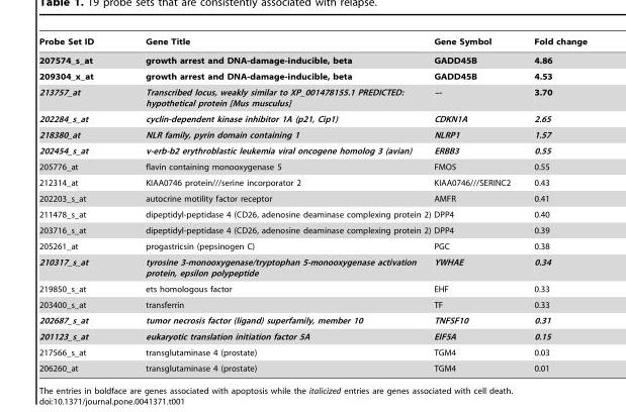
<table><thead><tr><td>Probe Set ID</td><td>Gene Title</td><td>Gene Symbol</td><td>Fold change</td></tr></thead><tbody><tr><td>207574_s_at</td><td>growth arrest and DNA-damage-inducible, beta</td><td>GADD45B</td><td>4.86</td></tr><tr><td>209304_x_at</td><td>growth arrest and DNA-damage-inducible, beta</td><td>GADD45B</td><td>4.53</td></tr><tr><td>213757_at</td><td>Transcribed locus, weakly similar to XP_001478155.1 PREDICTED: hypothetical protein [Mus musculus]</td><td>–-</td><td>3.70</td></tr><tr><td>202284_s_at</td><td>cyclin-dependent kinase inhibitor 1A (p21, Cip1)</td><td>CDKN1A</td><td>2.65</td></tr><tr><td>218380_at</td><td>NLR family, pyrin domain containing 1</td><td>NLRP1</td><td>1.57</td></tr><tr><td>202454_s_at</td><td>v-erb-b2 erythroblastic leukemia viral oncogene homolog 3 (avian)</td><td>ERBB3</td><td>0.55</td></tr><tr><td>205776_at</td><td>flavin containing monooxygenase 5</td><td>FMO5</td><td>0.55</td></tr><tr><td>212314_at</td><td>KIAA0746 protein///serine incorporator 2</td><td>KIAA0746///SERINC2</td><td>0.43</td></tr><tr><td>202203_s_at</td><td>autocrine motility factor receptor</td><td>AMFR</td><td>0.41</td></tr><tr><td>211478_s_at</td><td>dipeptidyl-peptidase 4 (CD26, adenosine deaminase complexing protein 2)</td><td>DPP4</td><td>0.40</td></tr><tr><td>203716_s_at</td><td>dipeptidyl-peptidase 4 (CD26, adenosine deaminase complexing protein 2)</td><td>DPP4</td><td>0.39</td></tr><tr><td>205261_at</td><td>progastricsin (pepsinogen C)</td><td>PGC</td><td>0.38</td></tr><tr><td>210317_s_at</td><td>tyrosine 3-monooxygenase/tryptophan 5-monooxygenase activation protein, epsilon polypeptide</td><td>YWHAE</td><td>0.34</td></tr><tr><td>219850_s_at</td><td>ets homologous factor</td><td>EHF</td><td>0.33</td></tr><tr><td>203400_s_at</td><td>transferrin</td><td>TF</td><td>0.33</td></tr><tr><td>202687_s_at</td><td>tumor necrosis factor (ligand) superfamily, member 10</td><td>TNFSF10</td><td>0.31</td></tr><tr><td>201123_s_at</td><td>eukaryotic translation initiation factor 5A</td><td>EIF5A</td><td>0.15</td></tr><tr><td>217566_s_at</td><td>transglutaminase 4 (prostate)</td><td>TGM4</td><td>0.03</td></tr><tr><td>206260_at</td><td>transglutaminase 4 (prostate)</td><td>TGM4</td><td>0.01</td></tr></tbody></table>